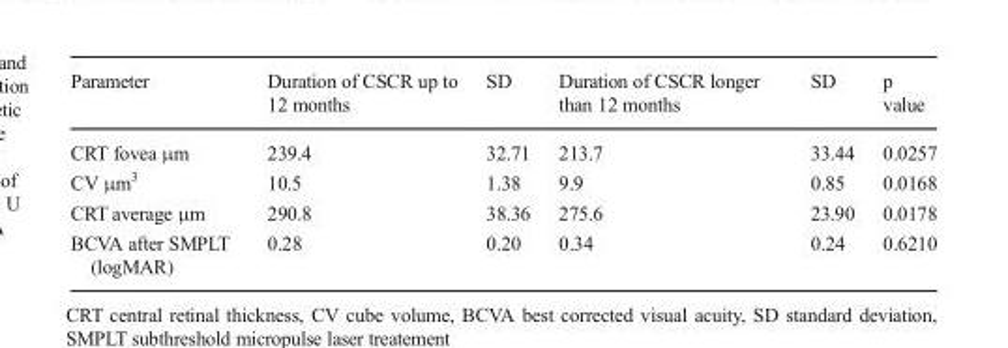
<table><thead><tr><td>Parameter</td><td>Duration of CSCR up to 12 months</td><td>SD</td><td>Duration of CSCR longer than 12 months</td><td>SD</td><td>p value</td></tr></thead><tbody><tr><td>CRT fovea μm</td><td>239.4</td><td>32.71</td><td>213.7</td><td>33.44</td><td>0.0257</td></tr><tr><td>CV μm<sup>3</sup></td><td>10.5</td><td>1.38</td><td>9.9</td><td>0.85</td><td>0.0168</td></tr><tr><td>CRT average μm</td><td>290.8</td><td>38.36</td><td>275.6</td><td>23.90</td><td>0.0178</td></tr><tr><td>BCVA after SMPLT (logMAR)</td><td>0.28</td><td>0.20</td><td>0.34</td><td>0.24</td><td>0.6210</td></tr></tbody></table>